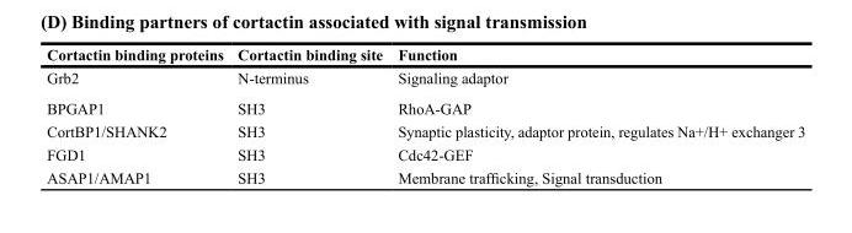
<table><thead><tr><td>Cortactin binding proteins</td><td>Cortactin binding site</td><td>Function</td></tr></thead><tbody><tr><td>Grb2</td><td>N-terminus</td><td>Signaling adaptor</td></tr><tr><td>BPGAP1</td><td>SH3</td><td>RhoA-GAP</td></tr><tr><td>CortBP1/SHANK2</td><td>SH3</td><td>Synaptic plasticity, adaptor protein, regulates Na+/H+ exchanger 3</td></tr><tr><td>FGD1</td><td>SH3</td><td>Cdc42-GEF</td></tr><tr><td>ASAP1/AMAP1</td><td>SH3</td><td>Membrane trafficking, Signal transduction</td></tr></tbody></table>